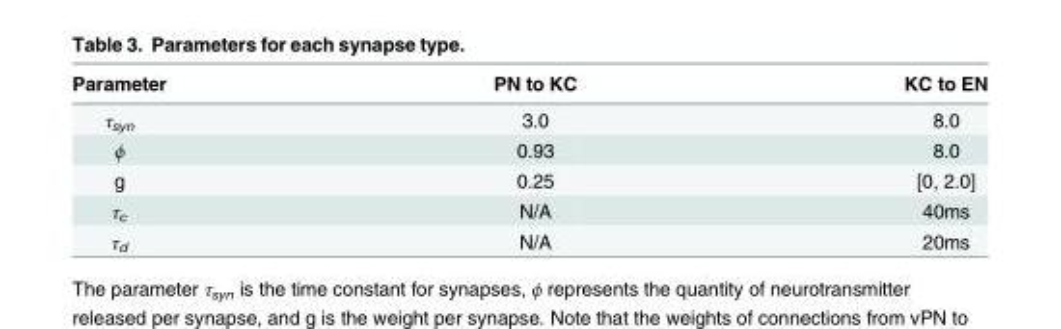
<table><thead><tr><td>Parameter</td><td>PN to KC</td><td>KC to EN</td></tr></thead><tbody><tr><td>τ<sub>syn</sub></td><td>3.0</td><td>8.0</td></tr><tr><td>ϕ</td><td>0.93</td><td>8.0</td></tr><tr><td>g</td><td>0.25</td><td>[0, 2.0]</td></tr><tr><td>τ<sub>c</sub></td><td>N/A</td><td>40ms</td></tr><tr><td>τ<sub>d</sub></td><td>N/A</td><td>20ms</td></tr></tbody></table>